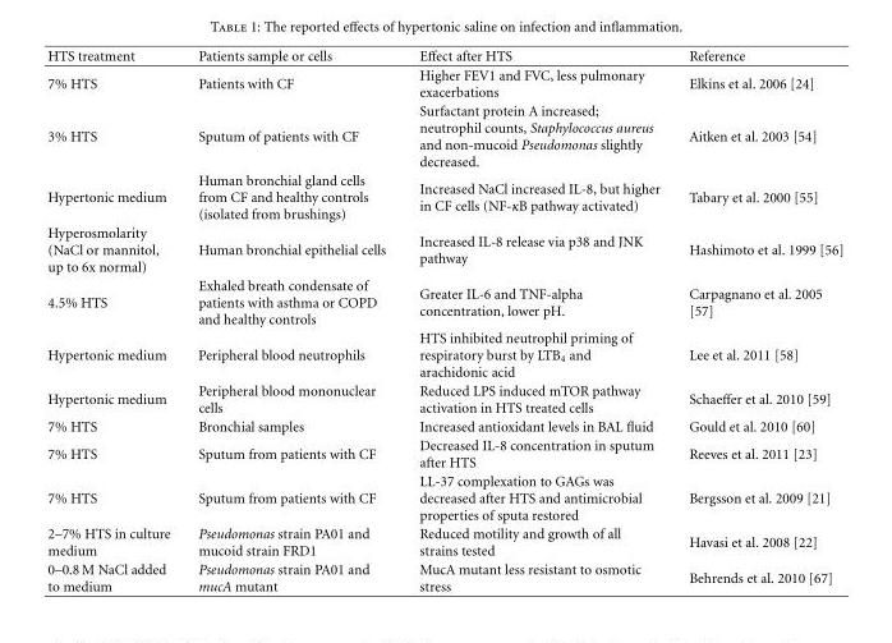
<table><thead><tr><td>HTS treatment</td><td>Patients sample or cells</td><td>Effect after HTS</td><td>Reference</td></tr></thead><tbody><tr><td>7% HTS</td><td>Patients with CF</td><td>Higher FEV1 and FVC, less pulmonary exacerbations</td><td>Elkins et al. 2006 [24]</td></tr><tr><td>3% HTS</td><td>Sputum of patients with CF</td><td>Surfactant protein A increased; neutrophil counts, Staphylococcus aureus and non-mucoid Pseudomonas slightly decreased.</td><td>Aitken et al. 2003 [54]</td></tr><tr><td>Hypertonic medium</td><td>Human bronchial gland cells from CF and healthy controls (isolated from brushings)</td><td>Increased NaCl increased IL-8, but higher in CF cells (NF-κB pathway activated)</td><td>Tabary et al. 2000 [55]</td></tr><tr><td>Hyperosmolarity (NaCl or mannitol, up to 6x normal)</td><td>Human bronchial epithelial cells</td><td>Increased IL-8 release via p38 and JNK pathway</td><td>Hashimoto et al. 1999 [56]</td></tr><tr><td>4.5% HTS</td><td>Exhaled breath condensate of patients with asthma or COPD and healthy controls</td><td>Greater IL-6 and TNF-alpha concentration, lower pH.</td><td>Carpagnano et al. 2005 [57]</td></tr><tr><td>Hypertonic medium</td><td>Peripheral blood neutrophils</td><td>HTS inhibited neutrophil priming of respiratory burst by LTB<sub>4</sub> and arachidonic acid</td><td>Lee et al. 2011 [58]</td></tr><tr><td>Hypertonic medium</td><td>Peripheral blood mononuclear cells</td><td>Reduced LPS induced mTOR pathway activation in HTS treated cells</td><td>Schaeffer et al. 2010 [59]</td></tr><tr><td>7% HTS</td><td>Bronchial samples</td><td>Increased antioxidant levels in BAL fluid</td><td>Gould et al. 2010 [60]</td></tr><tr><td>7% HTS</td><td>Sputum from patients with CF</td><td>Decreased IL-8 concentration in sputum after HTS</td><td>Reeves et al. 2011 [23]</td></tr><tr><td>7% HTS</td><td>Sputum from patients with CF</td><td>LL-37 complexation to GAGs was decreased after HTS and antimicrobial properties of sputa restored</td><td>Bergsson et al. 2009 [21]</td></tr><tr><td>2–7% HTS in culture medium</td><td>Pseudomonas strain PA01 and mucoid strain FRD1</td><td>Reduced motility and growth of all strains tested</td><td>Havasi et al. 2008 [22]</td></tr><tr><td>0–0.8 M NaCl added to medium</td><td>Pseudomonas strain PA01 and mucA mutant</td><td>MucA mutant less resistant to osmotic stress</td><td>Behrends et al. 2010 [67]</td></tr></tbody></table>